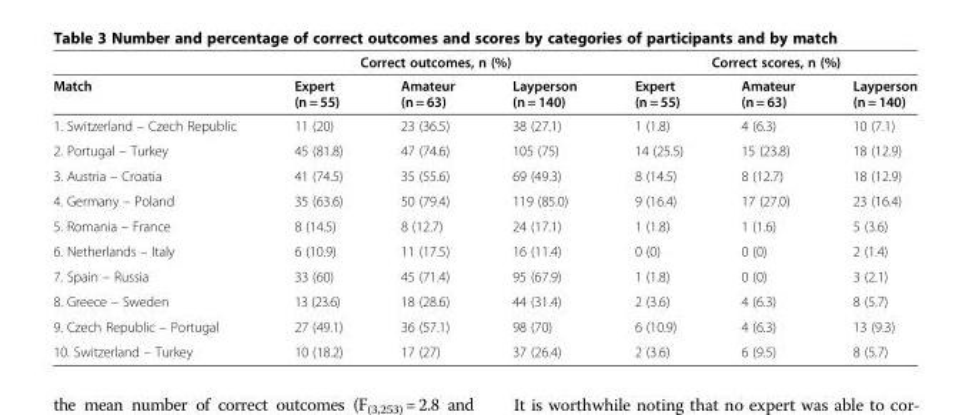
<table><thead><tr><td rowspan="2">Match</td><td colspan="3">Correct outcomes, n (%)</td><td colspan="3">Correct scores, n (%)</td></tr><tr><td>Expert (n = 55)</td><td>Amateur (n = 63)</td><td>Layperson (n = 140)</td><td>Expert (n = 55)</td><td>Amateur (n = 63)</td><td>Layperson (n = 140)</td></tr></thead><tbody><tr><td>1. Switzerland – Czech Republic</td><td>11 (20)</td><td>23 (36.5)</td><td>38 (27.1)</td><td>1 (1.8)</td><td>4 (6.3)</td><td>10 (7.1)</td></tr><tr><td>2. Portugal – Turkey</td><td>45 (81.8)</td><td>47 (74.6)</td><td>105 (75)</td><td>14 (25.5)</td><td>15 (23.8)</td><td>18 (12.9)</td></tr><tr><td>3. Austria – Croatia</td><td>41 (74.5)</td><td>35 (55.6)</td><td>69 (49.3)</td><td>8 (14.5)</td><td>8 (12.7)</td><td>18 (12.9)</td></tr><tr><td>4. Germany – Poland</td><td>35 (63.6)</td><td>50 (79.4)</td><td>119 (85.0)</td><td>9 (16.4)</td><td>17 (27.0)</td><td>23 (16.4)</td></tr><tr><td>5. Romania – France</td><td>8 (14.5)</td><td>8 (12.7)</td><td>24 (17.1)</td><td>1 (1.8)</td><td>1 (1.6)</td><td>5 (3.6)</td></tr><tr><td>6. Netherlands – Italy</td><td>6 (10.9)</td><td>11 (17.5)</td><td>16 (11.4)</td><td>0 (0)</td><td>0 (0)</td><td>2 (1.4)</td></tr><tr><td>7. Spain – Russia</td><td>33 (60)</td><td>45 (71.4)</td><td>95 (67.9)</td><td>1 (1.8)</td><td>0 (0)</td><td>3 (2.1)</td></tr><tr><td>8. Greece – Sweden</td><td>13 (23.6)</td><td>18 (28.6)</td><td>44 (31.4)</td><td>2 (3.6)</td><td>4 (6.3)</td><td>8 (5.7)</td></tr><tr><td>9. Czech Republic – Portugal</td><td>27 (49.1)</td><td>36 (57.1)</td><td>98 (70)</td><td>6 (10.9)</td><td>4 (6.3)</td><td>13 (9.3)</td></tr><tr><td>10. Switzerland – Turkey</td><td>10 (18.2)</td><td>17 (27)</td><td>37 (26.4)</td><td>2 (3.6)</td><td>6 (9.5)</td><td>8 (5.7)</td></tr></tbody></table>